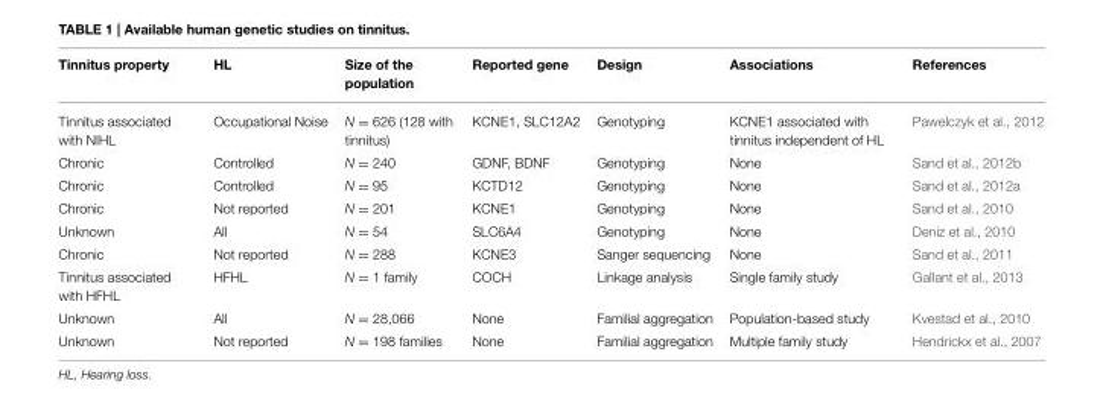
<table><thead><tr><td>Tinnitus property</td><td>HL</td><td>Size of the population</td><td>Reported gene</td><td>Design</td><td>Associations</td><td>References</td></tr></thead><tbody><tr><td>Tinnitus associated with NIHL</td><td>Occupational Noise</td><td>N = 626 (128 with tinnitus)</td><td>KCNE1, SLC12A2</td><td>Genotyping</td><td>KCNE1 associated with tinnitus independent of HL</td><td>Pawelczyk et al., 2012</td></tr><tr><td>Chronic</td><td>Controlled</td><td>N = 240</td><td>GDNF, BDNF</td><td>Genotyping</td><td>None</td><td>Sand et al., 2012b</td></tr><tr><td>Chronic</td><td>Controlled</td><td>N = 95</td><td>KCTD12</td><td>Genotyping</td><td>None</td><td>Sand et al., 2012a</td></tr><tr><td>Chronic</td><td>Not reported</td><td>N = 201</td><td>KCNE1</td><td>Genotyping</td><td>None</td><td>Sand et al., 2010</td></tr><tr><td>Unknown</td><td>All</td><td>N = 54</td><td>SLC6A4</td><td>Genotyping</td><td>None</td><td>Deniz et al., 2010</td></tr><tr><td>Chronic</td><td>Not reported</td><td>N = 288</td><td>KCNE3</td><td>Sanger sequencing</td><td>None</td><td>Sand et al., 2011</td></tr><tr><td>Tinnitus associated with HFHL</td><td>HFHL</td><td>N = 1 family</td><td>COCH</td><td>Linkage analysis</td><td>Single family study</td><td>Gallant et al., 2013</td></tr><tr><td>Unknown</td><td>All</td><td>N = 28,066</td><td>None</td><td>Familial aggregation</td><td>Population-based study</td><td>Kvestad et al., 2010</td></tr><tr><td>Unknown</td><td>Not reported</td><td>N = 198 families</td><td>None</td><td>Familial aggregation</td><td>Multiple family study</td><td>Hendrickx et al., 2007</td></tr></tbody></table>